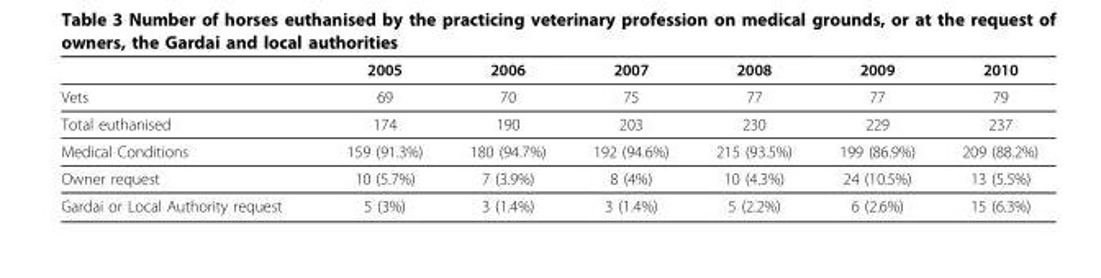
<table><thead><tr><td></td><td>2005</td><td>2006</td><td>2007</td><td>2008</td><td>2009</td><td>2010</td></tr></thead><tbody><tr><td>Vets</td><td>69</td><td>70</td><td>75</td><td>77</td><td>77</td><td>79</td></tr><tr><td>Total euthanised</td><td>174</td><td>190</td><td>203</td><td>230</td><td>229</td><td>237</td></tr><tr><td>Medical Conditions</td><td>159 (91.3%)</td><td>180 (94.7%)</td><td>192 (94.6%)</td><td>215 (93.5%)</td><td>199 (86.9%)</td><td>209 (88.2%)</td></tr><tr><td>Owner request</td><td>10 (5.7%)</td><td>7 (3.9%)</td><td>8 (4%)</td><td>10 (4.3%)</td><td>24 (10.5%)</td><td>13 (5.5%)</td></tr><tr><td>Gardai or Local Authority request</td><td>5 (3%)</td><td>3 (1.4%)</td><td>3 (1.4%)</td><td>5 (2.2%)</td><td>6 (2.6%)</td><td>15 (6.3%)</td></tr></tbody></table>